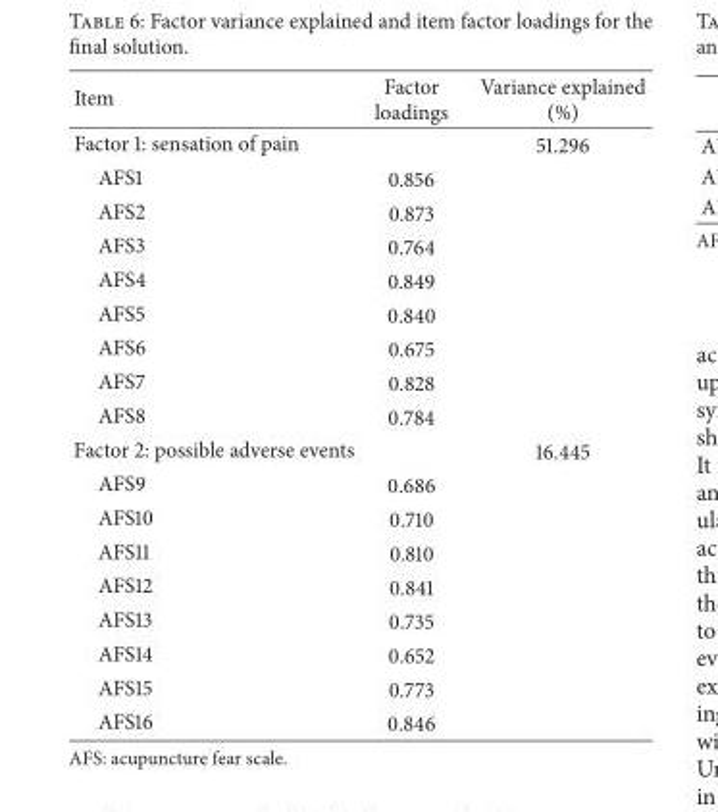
<table><thead><tr><td>Item</td><td>Factor loadings</td><td>Variance explained (%)</td></tr></thead><tbody><tr><td>Factor 1: sensation of pain</td><td></td><td>51.296</td></tr><tr><td>AFS1</td><td>0.856</td><td></td></tr><tr><td>AFS2</td><td>0.873</td><td></td></tr><tr><td>AFS3</td><td>0.764</td><td></td></tr><tr><td>AFS4</td><td>0.849</td><td></td></tr><tr><td>AFS5</td><td>0.840</td><td></td></tr><tr><td>AFS6</td><td>0.675</td><td></td></tr><tr><td>AFS7</td><td>0.828</td><td></td></tr><tr><td>AFS8</td><td>0.784</td><td></td></tr><tr><td>Factor 2: possible adverse events</td><td></td><td>16.445</td></tr><tr><td>AFS9</td><td>0.686</td><td></td></tr><tr><td>AFS10</td><td>0.710</td><td></td></tr><tr><td>AFS11</td><td>0.810</td><td></td></tr><tr><td>AFS12</td><td>0.841</td><td></td></tr><tr><td>AFS13</td><td>0.735</td><td></td></tr><tr><td>AFS14</td><td>0.652</td><td></td></tr><tr><td>AFS15</td><td>0.773</td><td></td></tr><tr><td>AFS16</td><td>0.846</td><td></td></tr></tbody></table>